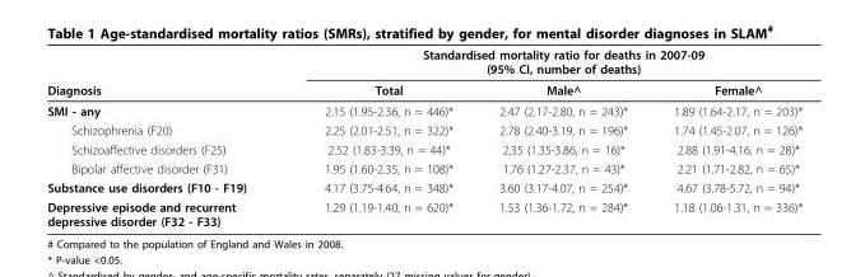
<table><thead><tr><td rowspan="2">Diagnosis</td><td colspan="3">Standardised mortality ratio for deaths in 2007-09 (95% CI, number of deaths)</td></tr><tr><td>Total</td><td>Male^</td><td>Female^</td></tr></thead><tbody><tr><td>SMI - any</td><td>2.15 (1.95-2.36, n = 446)*</td><td>2.47 (2.17-2.80, n = 243)*</td><td>1.89 (1.64-2.17, n = 203)*</td></tr><tr><td>Schizophrenia (F20)</td><td>2.25 (2.01-2.51, n = 322)*</td><td>2.78 (2.40-3.19, n = 196)*</td><td>1.74 (1.45-2.07, n = 126)*</td></tr><tr><td>Schizoaffective disorders (F25)</td><td>2.52 (1.83-3.39, n = 44)*</td><td>2.35 (1.35-3.86, n = 16)*</td><td>2.88 (1.91-4.16, n = 28)*</td></tr><tr><td>Bipolar affective disorder (F31)</td><td>1.95 (1.60-2.35, n = 108)*</td><td>1.76 (1.27-2.37, n = 43)*</td><td>2.21 (1.71-2.82, n = 65)*</td></tr><tr><td>Substance use disorders (F10 - F19)</td><td>4.17 (3.75-4.64, n = 348)*</td><td>3.60 (3.17-4.07, n = 254)*</td><td>4.67 (3.78-5.72, n = 94)*</td></tr><tr><td>Depressive episode and recurrent depressive disorder (F32 - F33)</td><td>1.29 (1.19-1.40, n = 620)*</td><td>1.53 (1.36-1.72, n = 284)*</td><td>1.18 (1.06-1.31, n = 336)*</td></tr></tbody></table>